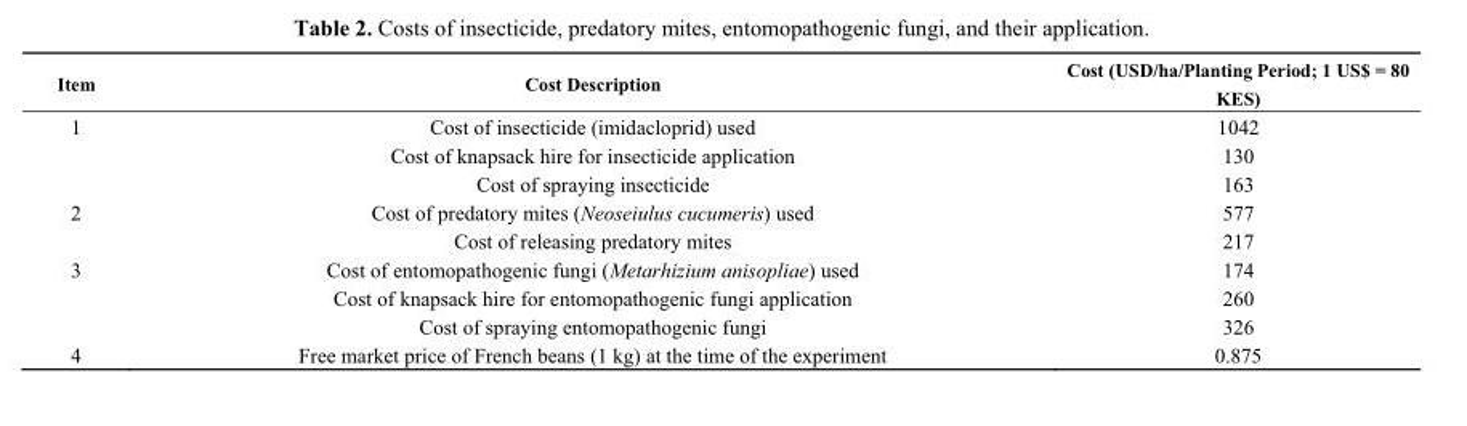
<table><thead><tr><td>Item</td><td>Cost Description</td><td>Cost (USD/ha/Planting Period; 1 US$ = 80 KES)</td></tr></thead><tbody><tr><td rowspan="3">1</td><td>Cost of insecticide (imidacloprid) used</td><td>1042</td></tr><tr><td>Cost of knapsack hire for insecticide application</td><td>130</td></tr><tr><td>Cost of spraying insecticide</td><td>163</td></tr><tr><td rowspan="2">2</td><td>Cost of predatory mites (Neoseiulus cucumeris) used</td><td>577</td></tr><tr><td>Cost of releasing predatory mites</td><td>217</td></tr><tr><td rowspan="3">3</td><td>Cost of entomopathogenic fungi (Metarhizium anisopliae) used</td><td>174</td></tr><tr><td>Cost of knapsack hire for entomopathogenic fungi application</td><td>260</td></tr><tr><td>Cost of spraying entomopathogenic fungi</td><td>326</td></tr><tr><td>4</td><td>Free market price of French beans (1 kg) at the time of the experiment</td><td>0.875</td></tr></tbody></table>